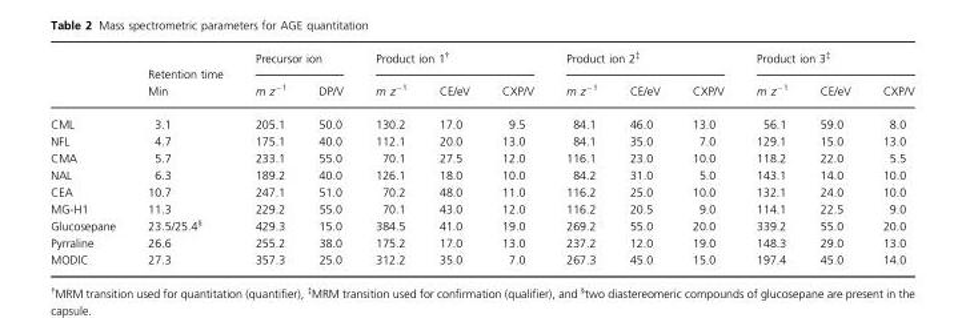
<table><thead><tr><td rowspan="2"></td><td rowspan="2">Retention time Min</td><td colspan="2">Precursor ion</td><td colspan="3">Product ion 1†</td><td colspan="3">Product ion 2‡</td><td colspan="3">Product ion 3‡</td></tr><tr><td>m z<sup>−1</sup></td><td>DP/V</td><td>m z<sup>−1</sup></td><td>CE/eV</td><td>CXP/V</td><td>m z<sup>−1</sup></td><td>CE/eV</td><td>CXP/V</td><td>m z<sup>−1</sup></td><td>CE/eV</td><td>CXP/V</td></tr></thead><tbody><tr><td>CML</td><td>3.1</td><td>205.1</td><td>50.0</td><td>130.2</td><td>17.0</td><td>9.5</td><td>84.1</td><td>46.0</td><td>13.0</td><td>56.1</td><td>59.0</td><td>8.0</td></tr><tr><td>NFL</td><td>4.7</td><td>175.1</td><td>40.0</td><td>112.1</td><td>20.0</td><td>13.0</td><td>84.1</td><td>35.0</td><td>7.0</td><td>129.1</td><td>15.0</td><td>13.0</td></tr><tr><td>CMA</td><td>5.7</td><td>233.1</td><td>55.0</td><td>70.1</td><td>27.5</td><td>12.0</td><td>116.1</td><td>23.0</td><td>10.0</td><td>118.2</td><td>22.0</td><td>5.5</td></tr><tr><td>NAL</td><td>6.3</td><td>189.2</td><td>40.0</td><td>126.1</td><td>18.0</td><td>10.0</td><td>84.2</td><td>31.0</td><td>5.0</td><td>143.1</td><td>14.0</td><td>10.0</td></tr><tr><td>CEA</td><td>10.7</td><td>247.1</td><td>51.0</td><td>70.2</td><td>48.0</td><td>11.0</td><td>116.2</td><td>25.0</td><td>10.0</td><td>132.1</td><td>24.0</td><td>10.0</td></tr><tr><td>MG-H1</td><td>11.3</td><td>229.2</td><td>55.0</td><td>70.1</td><td>43.0</td><td>12.0</td><td>116.2</td><td>20.5</td><td>9.0</td><td>114.1</td><td>22.5</td><td>9.0</td></tr><tr><td>Glucosepane</td><td>23.5/25.4§</td><td>429.3</td><td>15.0</td><td>384.5</td><td>41.0</td><td>19.0</td><td>269.2</td><td>55.0</td><td>20.0</td><td>339.2</td><td>55.0</td><td>20.0</td></tr><tr><td>Pyrraline</td><td>26.6</td><td>255.2</td><td>38.0</td><td>175.2</td><td>17.0</td><td>13.0</td><td>237.2</td><td>12.0</td><td>19.0</td><td>148.3</td><td>29.0</td><td>13.0</td></tr><tr><td>MODIC</td><td>27.3</td><td>357.3</td><td>25.0</td><td>312.2</td><td>35.0</td><td>7.0</td><td>267.3</td><td>45.0</td><td>15.0</td><td>197.4</td><td>45.0</td><td>14.0</td></tr></tbody></table>